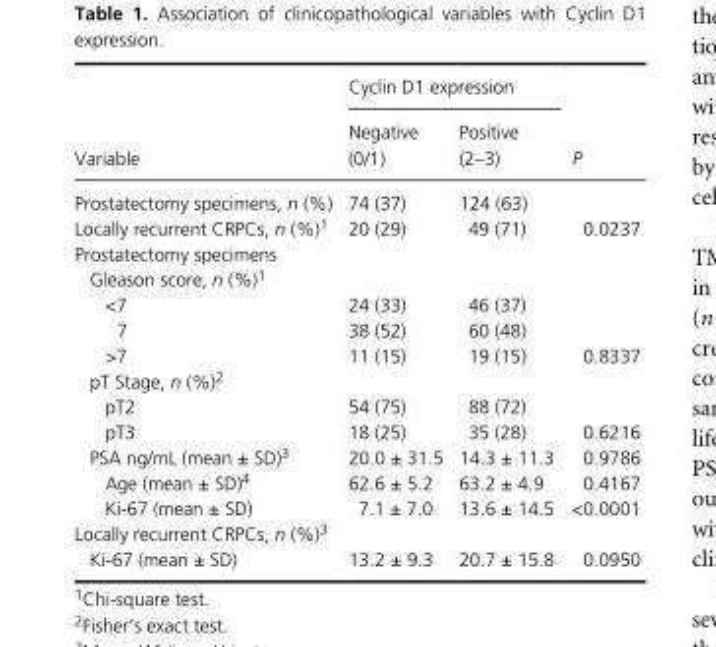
<table><thead><tr><td rowspan="2">Variable</td><td colspan="2">Cyclin D1 expression</td><td rowspan="2">P</td></tr><tr><td>Negative (0/1)</td><td>Positive (2–3)</td></tr></thead><tbody><tr><td>Prostatectomy specimens, n (%)</td><td>74 (37)</td><td>124 (63)</td><td></td></tr><tr><td>Locally recurrent CRPCs, n (%)<sup>1</sup></td><td>20 (29)</td><td>49 (71)</td><td>0.0237</td></tr><tr><td colspan="4">Prostatectomy specimens</td></tr><tr><td colspan="4">Gleason score, n (%)<sup>1</sup></td></tr><tr><td>&lt;7</td><td>24 (33)</td><td>46 (37)</td><td></td></tr><tr><td>7</td><td>38 (52)</td><td>60 (48)</td><td></td></tr><tr><td>&gt;7</td><td>11 (15)</td><td>19 (15)</td><td>0.8337</td></tr><tr><td colspan="4">pT Stage, n (%)<sup>2</sup></td></tr><tr><td>pT2</td><td>54 (75)</td><td>88 (72)</td><td></td></tr><tr><td>pT3</td><td>18 (25)</td><td>35 (28)</td><td>0.6216</td></tr><tr><td>PSA ng/mL (mean ± SD)<sup>3</sup></td><td>20.0 ± 31.5</td><td>14.3 ± 11.3</td><td>0.9786</td></tr><tr><td>Age (mean ± SD)<sup>4</sup></td><td>62.6 ± 5.2</td><td>63.2 ± 4.9</td><td>0.4167</td></tr><tr><td>Ki- 67 (mean ± SD)</td><td>7.1 ± 7.0</td><td>13.6 ± 14.5</td><td>&lt;0.0001</td></tr><tr><td colspan="4">Locally recurrent CRPCs, n (%)<sup>3</sup></td></tr><tr><td>Ki- 67 (mean ± SD)</td><td>13.2 ± 9.3</td><td>20.7 ± 15.8</td><td>0.0950</td></tr></tbody></table>